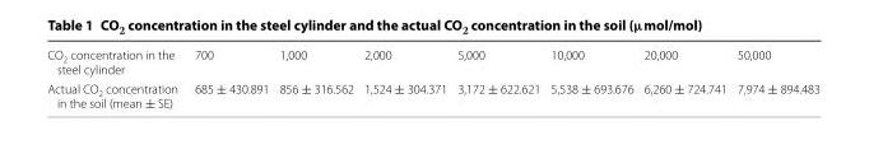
<table><tbody><tr><td>CO<sub>2</sub> concentration in the steel cylinder</td><td>700</td><td>1,000</td><td>2,000</td><td>5,000</td><td>10,000</td><td>20,000</td><td>50,000</td></tr><tr><td>Actual CO<sub>2</sub> concentration in the soil (mean ± SE)</td><td>685 ± 430.891</td><td>856 ± 316.562</td><td>1,524 ± 304.371</td><td>3,172 ± 622.621</td><td>5,538 ± 693.676</td><td>6,260 ± 724.741</td><td>7,974 ± 894.483</td></tr></tbody></table>